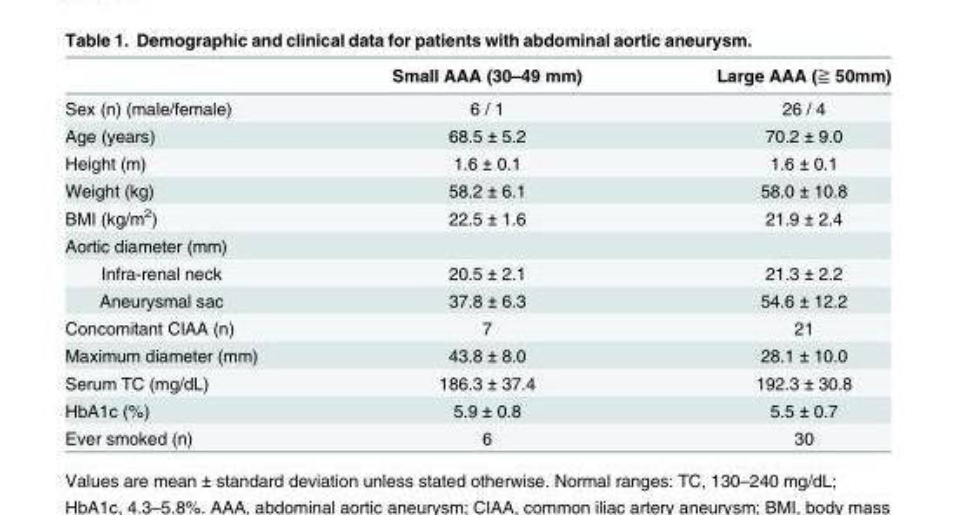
<table><thead><tr><td></td><td>Small AAA (30–49 mm)</td><td>Large AAA (≧ 50mm)</td></tr></thead><tbody><tr><td>Sex (n) (male/female)</td><td>6 / 1</td><td>26 / 4</td></tr><tr><td>Age (years)</td><td>68.5 ± 5.2</td><td>70.2 ± 9.0</td></tr><tr><td>Height (m)</td><td>1.6 ± 0.1</td><td>1.6 ± 0.1</td></tr><tr><td>Weight (kg)</td><td>58.2 ± 6.1</td><td>58.0 ± 10.8</td></tr><tr><td>BMI (kg/m<sup>2</sup>)</td><td>22.5 ± 1.6</td><td>21.9 ± 2.4</td></tr><tr><td colspan="3">Aortic diameter (mm)</td></tr><tr><td>Infra-renal neck</td><td>20.5 ± 2.1</td><td>21.3 ± 2.2</td></tr><tr><td>Aneurysmal sac</td><td>37.8 ± 6.3</td><td>54.6 ± 12.2</td></tr><tr><td>Concomitant CIAA (n)</td><td>7</td><td>21</td></tr><tr><td>Maximum diameter (mm)</td><td>43.8 ± 8.0</td><td>28.1 ± 10.0</td></tr><tr><td>Serum TC (mg/dL)</td><td>186.3 ± 37.4</td><td>192.3 ± 30.8</td></tr><tr><td>HbA1c (%)</td><td>5.9 ± 0.8</td><td>5.5 ± 0.7</td></tr><tr><td>Ever smoked (n)</td><td>6</td><td>30</td></tr></tbody></table>